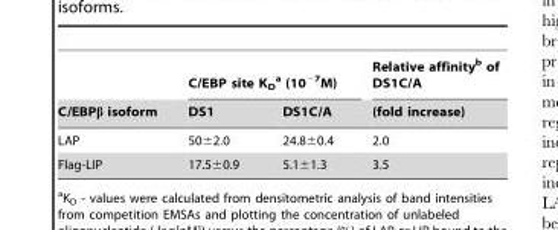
<table><thead><tr><td rowspan="2">C/EBPβ isoform</td><td colspan="2">C/EBP site K<sub>D</sub> a (10<sup>−7</sup>M)</td><td rowspan="2">Relative affinity<sup>b</sup> of DS1C/A (fold increase)</td></tr><tr><td>DS1</td><td>DS1C/A</td></tr></thead><tbody><tr><td>LAP</td><td>50±2.0</td><td>24.8±0.4</td><td>2.0</td></tr><tr><td>Flag-LIP</td><td>17.5±0.9</td><td>5.1±1.3</td><td>3.5</td></tr></tbody></table>